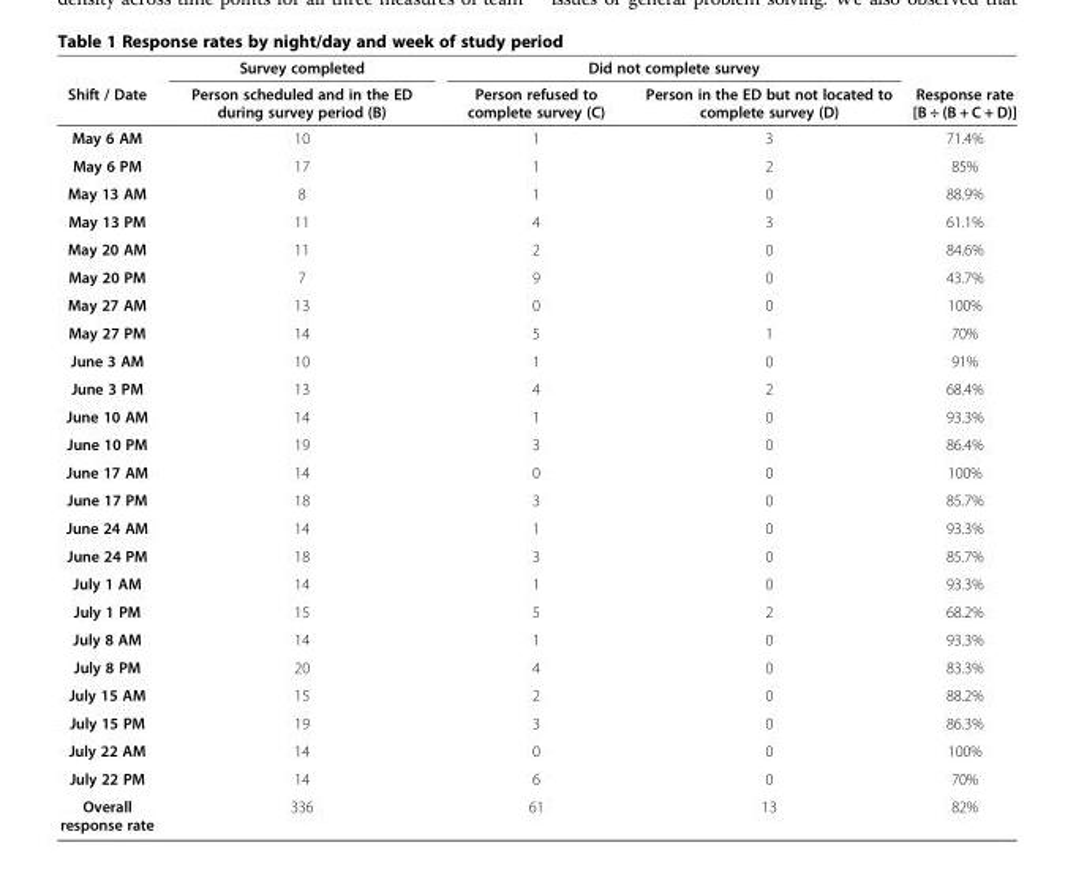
<table><thead><tr><td rowspan="2">Shift / Date</td><td rowspan="2">Survey completed Person scheduled and in the ED during survey period (B)</td><td colspan="2">Did not complete survey</td><td rowspan="2">Response rate [B ÷ (B + C + D)]</td></tr><tr><td>Person refused to complete survey (C)</td><td>Person in the ED but not located to complete survey (D)</td></tr></thead><tbody><tr><td>May 6 AM</td><td>10</td><td>1</td><td>3</td><td>71.4%</td></tr><tr><td>May 6 PM</td><td>17</td><td>1</td><td>2</td><td>85%</td></tr><tr><td>May 13 AM</td><td>8</td><td>1</td><td>0</td><td>88.9%</td></tr><tr><td>May 13 PM</td><td>11</td><td>4</td><td>3</td><td>61.1%</td></tr><tr><td>May 20 AM</td><td>11</td><td>2</td><td>0</td><td>84.6%</td></tr><tr><td>May 20 PM</td><td>7</td><td>9</td><td>0</td><td>43.7%</td></tr><tr><td>May 27 AM</td><td>13</td><td>0</td><td>0</td><td>100%</td></tr><tr><td>May 27 PM</td><td>14</td><td>5</td><td>1</td><td>70%</td></tr><tr><td>June 3 AM</td><td>10</td><td>1</td><td>0</td><td>91%</td></tr><tr><td>June 3 PM</td><td>13</td><td>4</td><td>2</td><td>68.4%</td></tr><tr><td>June 10 AM</td><td>14</td><td>1</td><td>0</td><td>93.3%</td></tr><tr><td>June 10 PM</td><td>19</td><td>3</td><td>0</td><td>86.4%</td></tr><tr><td>June 17 AM</td><td>14</td><td>0</td><td>0</td><td>100%</td></tr><tr><td>June 17 PM</td><td>18</td><td>3</td><td>0</td><td>85.7%</td></tr><tr><td>June 24 AM</td><td>14</td><td>1</td><td>0</td><td>93.3%</td></tr><tr><td>June 24 PM</td><td>18</td><td>3</td><td>0</td><td>85.7%</td></tr><tr><td>July 1 AM</td><td>14</td><td>1</td><td>0</td><td>93.3%</td></tr><tr><td>July 1 PM</td><td>15</td><td>5</td><td>2</td><td>68.2%</td></tr><tr><td>July 8 AM</td><td>14</td><td>1</td><td>0</td><td>93.3%</td></tr><tr><td>July 8 PM</td><td>20</td><td>4</td><td>0</td><td>83.3%</td></tr><tr><td>July 15 AM</td><td>15</td><td>2</td><td>0</td><td>88.2%</td></tr><tr><td>July 15 PM</td><td>19</td><td>3</td><td>0</td><td>86.3%</td></tr><tr><td>July 22 AM</td><td>14</td><td>0</td><td>0</td><td>100%</td></tr><tr><td>July 22 PM</td><td>14</td><td>6</td><td>0</td><td>70%</td></tr><tr><td>Overall response rate</td><td>336</td><td>61</td><td>13</td><td>82%</td></tr></tbody></table>